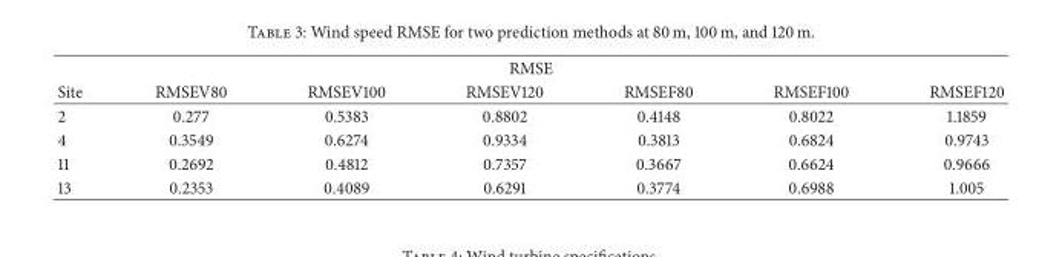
<table><thead><tr><td colspan="7">RMSE</td></tr><tr><td>Site</td><td>RMSEV80</td><td>RMSEV100</td><td>RMSEV120</td><td>RMSEF80</td><td>RMSEF100</td><td>RMSEF120</td></tr></thead><tbody><tr><td>2</td><td>0.277</td><td>0.5383</td><td>0.8802</td><td>0.4148</td><td>0.8022</td><td>1.1859</td></tr><tr><td>4</td><td>0.3549</td><td>0.6274</td><td>0.9334</td><td>0.3813</td><td>0.6824</td><td>0.9743</td></tr><tr><td>11</td><td>0.2692</td><td>0.4812</td><td>0.7357</td><td>0.3667</td><td>0.6624</td><td>0.9666</td></tr><tr><td>13</td><td>0.2353</td><td>0.4089</td><td>0.6291</td><td>0.3774</td><td>0.6988</td><td>1.005</td></tr></tbody></table>